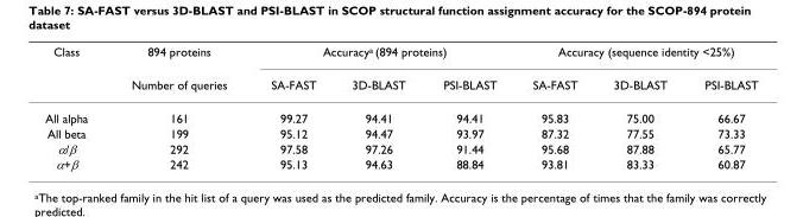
<table><thead><tr><td rowspan="2">Class</td><td rowspan="2">894 proteins Number of queries</td><td colspan="3">Accuracy<sup>a</sup> (894 proteins)</td><td colspan="3">Accuracy (sequence identity &lt;25%)</td></tr><tr><td>SA-FAST</td><td>3D-BLAST</td><td>PSI-BLAST</td><td>SA-FAST</td><td>3D-BLAST</td><td>PSI-BLAST</td></tr></thead><tbody><tr><td>All alpha</td><td>161</td><td>99.27</td><td>94.41</td><td>94.41</td><td>95.83</td><td>75.00</td><td>66.67</td></tr><tr><td>All beta</td><td>199</td><td>95.12</td><td>94.47</td><td>93.97</td><td>87.32</td><td>77.55</td><td>73.33</td></tr><tr><td>α/β</td><td>292</td><td>97.58</td><td>97.26</td><td>91.44</td><td>95.68</td><td>87.88</td><td>65.77</td></tr><tr><td>α+β</td><td>242</td><td>95.13</td><td>94.63</td><td>88.84</td><td>93.81</td><td>83.33</td><td>60.87</td></tr></tbody></table>